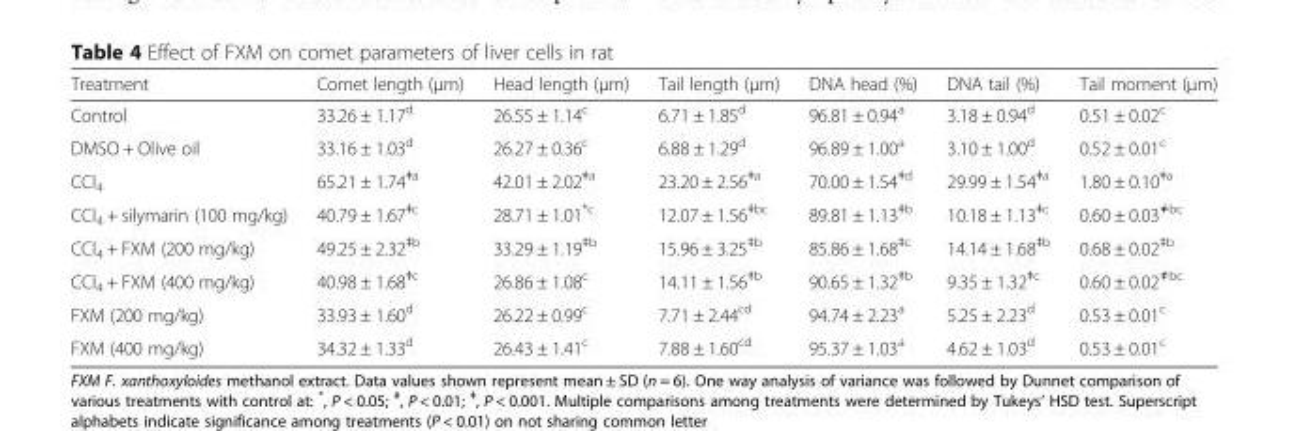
<table><thead><tr><td>Treatment</td><td>Comet length (μm)</td><td>Head length (μm)</td><td>Tail length (μm)</td><td>DNA head (%)</td><td>DNA tail (%)</td><td>Tail moment (μm)</td></tr></thead><tbody><tr><td>Control</td><td>33.26 ± 1.17<sup>d</sup></td><td>26.55 ± 1.14<sup>c</sup></td><td>6.71 ± 1.85<sup>d</sup></td><td>96.81 ± 0.94<sup>a</sup></td><td>3.18 ± 0.94<sup>d</sup></td><td>0.51 ± 0.02<sup>c</sup></td></tr><tr><td>DMSO + Olive oil</td><td>33.16 ± 1.03<sup>d</sup></td><td>26.27 ± 0.36<sup>c</sup></td><td>6.88 ± 1.29<sup>d</sup></td><td>96.89 ± 1.00<sup>a</sup></td><td>3.10 ± 1.00<sup>d</sup></td><td>0.52 ± 0.01<sup>c</sup></td></tr><tr><td>CCl<sub>4</sub></td><td>65.21 ± 1.74<sup>ǂa</sup></td><td>42.01 ± 2.02<sup>ǂa</sup></td><td>23.20 ± 2.56<sup>ǂa</sup></td><td>70.00 ± 1.54<sup>ǂd</sup></td><td>29.99 ± 1.54<sup>ǂa</sup></td><td>1.80 ± 0.10<sup>ǂa</sup></td></tr><tr><td>CCl<sub>4</sub> + silymarin (100 mg/kg)</td><td>40.79 ± 1.67<sup>ǂc</sup></td><td>28.71 ± 1.01<sup>*c</sup></td><td>12.07 ± 1.56<sup>ǂbc</sup></td><td>89.81 ± 1.13<sup>ǂb</sup></td><td>10.18 ± 1.13<sup>ǂc</sup></td><td>0.60 ± 0.03<sup>≠bc</sup></td></tr><tr><td>CCl<sub>4</sub> + FXM (200 mg/kg)</td><td>49.25 ± 2.32<sup>ǂb</sup></td><td>33.29 ± 1.19<sup>ǂb</sup></td><td>15.96 ± 3.25<sup>ǂb</sup></td><td>85.86 ± 1.68<sup>ǂc</sup></td><td>14.14 ± 1.68<sup>ǂb</sup></td><td>0.68 ± 0.02<sup>ǂb</sup></td></tr><tr><td>CCl<sub>4</sub> + FXM (400 mg/kg)</td><td>40.98 ± 1.68<sup>ǂc</sup></td><td>26.86 ± 1.08<sup>c</sup></td><td>14.11 ± 1.56<sup>ǂb</sup></td><td>90.65 ± 1.32<sup>ǂb</sup></td><td>9.35 ± 1.32<sup>ǂc</sup></td><td>0.60 ± 0.02<sup>≠bc</sup></td></tr><tr><td>FXM (200 mg/kg)</td><td>33.93 ± 1.60<sup>d</sup></td><td>26.22 ± 0.99<sup>c</sup></td><td>7.71 ± 2.44<sup>cd</sup></td><td>94.74 ± 2.23<sup>a</sup></td><td>5.25 ± 2.23<sup>d</sup></td><td>0.53 ± 0.01<sup>c</sup></td></tr><tr><td>FXM (400 mg/kg)</td><td>34.32 ± 1.33<sup>d</sup></td><td>26.43 ± 1.41<sup>c</sup></td><td>7.88 ± 1.60<sup>cd</sup></td><td>95.37 ± 1.03<sup>a</sup></td><td>4.62 ± 1.03<sup>d</sup></td><td>0.53 ± 0.01<sup>c</sup></td></tr></tbody></table>